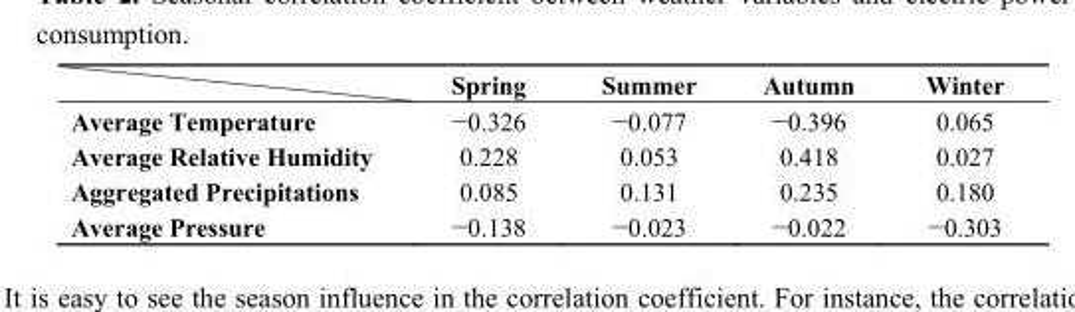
<table><thead><tr><td></td><td>Spring</td><td>Summer</td><td>Autumn</td><td>Winter</td></tr></thead><tbody><tr><td>Average Temperature</td><td>−0.326</td><td>−0.077</td><td>−0.396</td><td>0.065</td></tr><tr><td>Average Relative Humidity</td><td>0.228</td><td>0.053</td><td>0.418</td><td>0.027</td></tr><tr><td>Aggregated Precipitations</td><td>0.085</td><td>0.131</td><td>0.235</td><td>0.180</td></tr><tr><td>Average Pressure</td><td>−0.138</td><td>−0.023</td><td>−0.022</td><td>−0.303</td></tr></tbody></table>